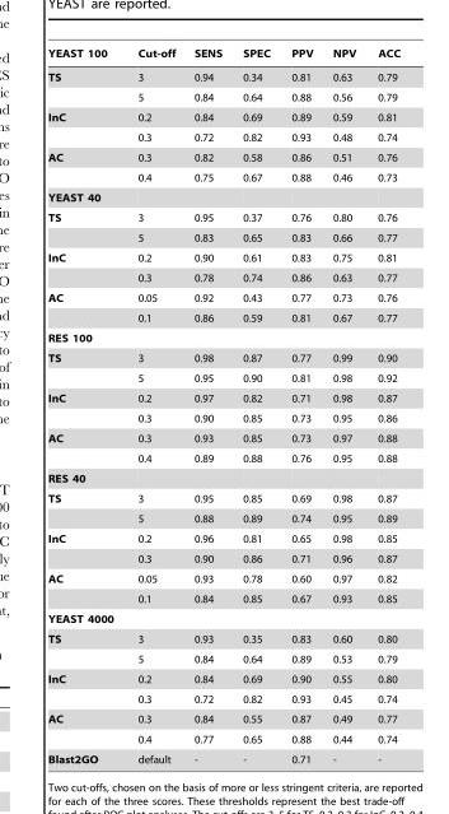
<table><thead><tr><td>YEAST 100</td><td>Cut-off</td><td>SENS</td><td>SPEC</td><td>PPV</td><td>NPV</td><td>ACC</td></tr></thead><tbody><tr><td rowspan="2">TS</td><td>3</td><td>0.94</td><td>0.34</td><td>0.81</td><td>0.63</td><td>0.79</td></tr><tr><td>5</td><td>0.84</td><td>0.64</td><td>0.88</td><td>0.56</td><td>0.79</td></tr><tr><td rowspan="2">InC</td><td>0.2</td><td>0.84</td><td>0.69</td><td>0.89</td><td>0.59</td><td>0.81</td></tr><tr><td>0.3</td><td>0.72</td><td>0.82</td><td>0.93</td><td>0.48</td><td>0.74</td></tr><tr><td rowspan="2">AC</td><td>0.3</td><td>0.82</td><td>0.58</td><td>0.86</td><td>0.51</td><td>0.76</td></tr><tr><td>0.4</td><td>0.75</td><td>0.67</td><td>0.88</td><td>0.46</td><td>0.73</td></tr><tr><td colspan="7">YEAST 40</td></tr><tr><td rowspan="2">TS</td><td>3</td><td>0.95</td><td>0.37</td><td>0.76</td><td>0.80</td><td>0.76</td></tr><tr><td>5</td><td>0.83</td><td>0.65</td><td>0.83</td><td>0.66</td><td>0.77</td></tr><tr><td rowspan="2">InC</td><td>0.2</td><td>0.90</td><td>0.61</td><td>0.83</td><td>0.75</td><td>0.81</td></tr><tr><td>0.3</td><td>0.78</td><td>0.74</td><td>0.86</td><td>0.63</td><td>0.77</td></tr><tr><td rowspan="2">AC</td><td>0.05</td><td>0.92</td><td>0.43</td><td>0.77</td><td>0.73</td><td>0.76</td></tr><tr><td>0.1</td><td>0.86</td><td>0.59</td><td>0.81</td><td>0.67</td><td>0.77</td></tr><tr><td colspan="7">RES 100</td></tr><tr><td rowspan="2">TS</td><td>3</td><td>0.98</td><td>0.87</td><td>0.77</td><td>0.99</td><td>0.90</td></tr><tr><td>5</td><td>0.95</td><td>0.90</td><td>0.81</td><td>0.98</td><td>0.92</td></tr><tr><td rowspan="2">InC</td><td>0.2</td><td>0.97</td><td>0.82</td><td>0.71</td><td>0.98</td><td>0.87</td></tr><tr><td>0.3</td><td>0.90</td><td>0.85</td><td>0.73</td><td>0.95</td><td>0.86</td></tr><tr><td rowspan="2">AC</td><td>0.3</td><td>0.93</td><td>0.85</td><td>0.73</td><td>0.97</td><td>0.88</td></tr><tr><td>0.4</td><td>0.89</td><td>0.88</td><td>0.76</td><td>0.95</td><td>0.88</td></tr><tr><td colspan="7">RES 40</td></tr><tr><td rowspan="2">TS</td><td>3</td><td>0.95</td><td>0.85</td><td>0.69</td><td>0.98</td><td>0.87</td></tr><tr><td>5</td><td>0.88</td><td>0.89</td><td>0.74</td><td>0.95</td><td>0.89</td></tr><tr><td rowspan="2">InC</td><td>0.2</td><td>0.96</td><td>0.81</td><td>0.65</td><td>0.98</td><td>0.85</td></tr><tr><td>0.3</td><td>0.90</td><td>0.86</td><td>0.71</td><td>0.96</td><td>0.87</td></tr><tr><td rowspan="2">AC</td><td>0.05</td><td>0.93</td><td>0.78</td><td>0.60</td><td>0.97</td><td>0.82</td></tr><tr><td>0.1</td><td>0.84</td><td>0.85</td><td>0.67</td><td>0.93</td><td>0.85</td></tr><tr><td colspan="7">YEAST 4000</td></tr><tr><td rowspan="2">TS</td><td>3</td><td>0.93</td><td>0.35</td><td>0.83</td><td>0.60</td><td>0.80</td></tr><tr><td>5</td><td>0.84</td><td>0.64</td><td>0.89</td><td>0.53</td><td>0.79</td></tr><tr><td rowspan="2">InC</td><td>0.2</td><td>0.84</td><td>0.69</td><td>0.90</td><td>0.55</td><td>0.80</td></tr><tr><td>0.3</td><td>0.72</td><td>0.82</td><td>0.93</td><td>0.45</td><td>0.74</td></tr><tr><td rowspan="2">AC</td><td>0.3</td><td>0.84</td><td>0.55</td><td>0.87</td><td>0.49</td><td>0.77</td></tr><tr><td>0.4</td><td>0.77</td><td>0.65</td><td>0.88</td><td>0.44</td><td>0.74</td></tr><tr><td>Blast2GO</td><td>default</td><td>-</td><td>-</td><td>0.71</td><td>-</td><td>-</td></tr></tbody></table>